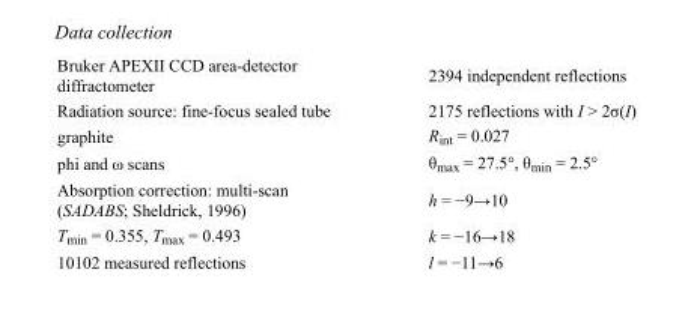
<table><tbody><tr><td>Bruker APEXII CCD area-detector diffractometer</td><td>2394 independent reflections</td></tr><tr><td>Radiation source: fine-focus sealed tube</td><td>2175 reflections with I &gt; 2σ(I)</td></tr><tr><td>graphite</td><td>R<sub>int</sub> = 0.027</td></tr><tr><td>phi and ω scans</td><td>θ<sub>max</sub> = 27.5°, θ<sub>min</sub> = 2.5°</td></tr><tr><td>Absorption correction: multi-scan (SADABS; Sheldrick, 1996)</td><td>h = −9→10</td></tr><tr><td>T<sub>min</sub> = 0.355, T<sub>max</sub> = 0.493</td><td>k = −16→18</td></tr><tr><td>10102 measured reflections</td><td>l = −11→6</td></tr></tbody></table>